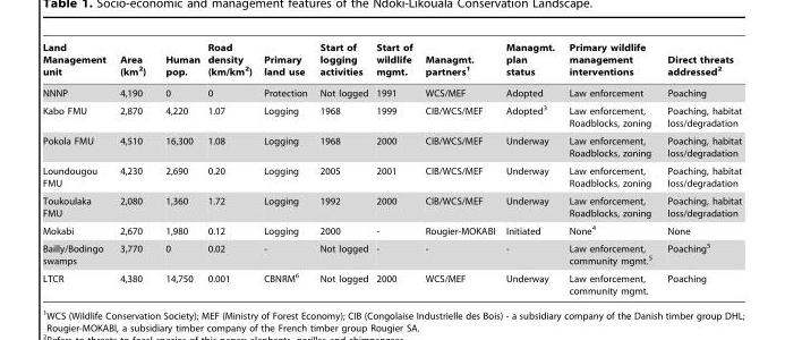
<table><thead><tr><td>Land Management unit</td><td>Area (km<sup>2</sup>)</td><td>Human pop.</td><td>Road density (km/km<sup>2</sup>)</td><td>Primary land use</td><td>Start of logging activities</td><td>Start of wildlife mgmt.</td><td>Managmt. partners<sup>1</sup></td><td>Managmt. plan status</td><td>Primary wildlife management interventions</td><td>Direct threats addressed<sup>2</sup></td></tr></thead><tbody><tr><td>NNNP</td><td>4,190</td><td>0</td><td>0</td><td>Protection</td><td>Not logged</td><td>1991</td><td>WCS/MEF</td><td>Adopted</td><td>Law enforcement</td><td>Poaching</td></tr><tr><td>Kabo FMU</td><td>2,870</td><td>4,220</td><td>1.07</td><td>Logging</td><td>1968</td><td>1999</td><td>CIB/WCS/MEF</td><td>Adopted<sup>3</sup></td><td>Law enforcement, Roadblocks, zoning</td><td>Poaching, habitat loss/degradation</td></tr><tr><td>Pokola FMU</td><td>4,510</td><td>16,300</td><td>1.08</td><td>Logging</td><td>1968</td><td>2000</td><td>CIB/WCS/MEF</td><td>Underway</td><td>Law enforcement, Roadblocks, zoning</td><td>Poaching, habitat loss/degradation</td></tr><tr><td>Loundougou FMU</td><td>4,230</td><td>2,690</td><td>0.20</td><td>Logging</td><td>2005</td><td>2001</td><td>CIB/WCS/MEF</td><td>Underway</td><td>Law enforcement, Roadblocks, zoning</td><td>Poaching, habitat loss/degradation</td></tr><tr><td>Toukoulaka FMU</td><td>2,080</td><td>1,360</td><td>1.72</td><td>Logging</td><td>1992</td><td>2000</td><td>CIB/WCS/MEF</td><td>Underway</td><td>Law enforcement, Roadblocks, zoning</td><td>Poaching, habitat loss/degradation</td></tr><tr><td>Mokabi</td><td>2,670</td><td>1,980</td><td>0.12</td><td>Logging</td><td>2000</td><td>-</td><td>Rougier-MOKABI</td><td>Initiated</td><td>None<sup>4</sup></td><td>None</td></tr><tr><td>Bailly/Bodingo swamps</td><td>3,770</td><td>0</td><td>0.02</td><td>-</td><td>Not logged</td><td>-</td><td>-</td><td>-</td><td>Law enforcement, community mgmt.<sup>5</sup></td><td>Poaching<sup>5</sup></td></tr><tr><td>LTCR</td><td>4,380</td><td>14,750</td><td>0.001</td><td>CBNRM<sup>6</sup></td><td>Not logged</td><td>2000</td><td>WCS/MEF</td><td>Underway</td><td>Law enforcement, community mgmt.</td><td>Poaching</td></tr></tbody></table>